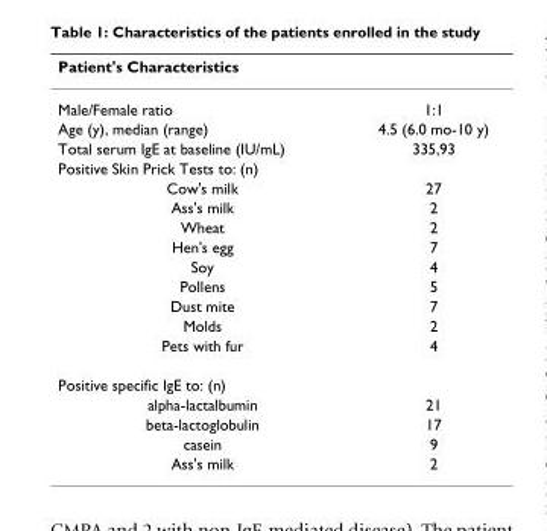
<table><thead><tr><td>Patient&#x27;s Characteristics</td><td></td></tr></thead><tbody><tr><td>Male/Female ratio</td><td>1:1</td></tr><tr><td>Age (y), median (range)</td><td>4.5 (6.0 mo-10 y)</td></tr><tr><td>Total serum IgE at baseline (IU/mL)</td><td>335,93</td></tr><tr><td colspan="2">Positive Skin Prick Tests to: (n)</td></tr><tr><td>Cow&#x27;s milk</td><td>27</td></tr><tr><td>Ass&#x27;s milk</td><td>2</td></tr><tr><td>Wheat</td><td>2</td></tr><tr><td>Hen&#x27;s egg</td><td>7</td></tr><tr><td>Soy</td><td>4</td></tr><tr><td>Pollens</td><td>5</td></tr><tr><td>Dust mite</td><td>7</td></tr><tr><td>Molds</td><td>2</td></tr><tr><td>Pets with fur</td><td>4</td></tr><tr><td colspan="2">Positive specific IgE to: (n)</td></tr><tr><td>alpha-lactalbumin</td><td>21</td></tr><tr><td>beta-lactoglobulin</td><td>17</td></tr><tr><td>casein</td><td>9</td></tr><tr><td>Ass&#x27;s milk</td><td>2</td></tr></tbody></table>